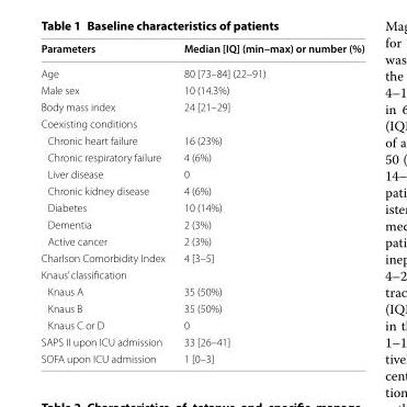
<table><thead><tr><td>Parameters</td><td>Median [IQ] (min–max) or number (%)</td></tr></thead><tbody><tr><td>Age</td><td>80 [73–84] (22–91)</td></tr><tr><td>Male sex</td><td>10 (14.3%)</td></tr><tr><td>Body mass index</td><td>24 [21–29]</td></tr><tr><td colspan="2">Coexisting conditions</td></tr><tr><td>Chronic heart failure</td><td>16 (23%)</td></tr><tr><td>Chronic respiratory failure</td><td>4 (6%)</td></tr><tr><td>Liver disease</td><td>0</td></tr><tr><td>Chronic kidney disease</td><td>4 (6%)</td></tr><tr><td>Diabetes</td><td>10 (14%)</td></tr><tr><td>Dementia</td><td>2 (3%)</td></tr><tr><td>Active cancer</td><td>2 (3%)</td></tr><tr><td>Charlson Comorbidity Index</td><td>4 [3–5]</td></tr><tr><td colspan="2">Knaus’ classification</td></tr><tr><td>Knaus A</td><td>35 (50%)</td></tr><tr><td>Knaus B</td><td>35 (50%)</td></tr><tr><td>Knaus C or D</td><td>0</td></tr><tr><td>SAPS II upon ICU admission</td><td>33 [26–41]</td></tr><tr><td>SOFA upon ICU admission</td><td>1 [0–3]</td></tr></tbody></table>